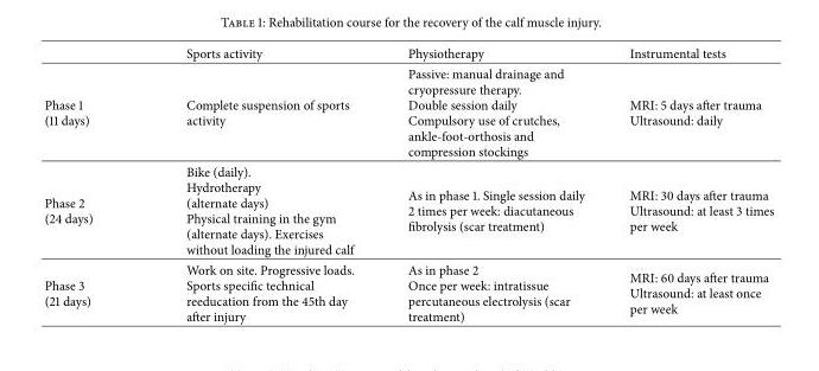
<table><thead><tr><td></td><td>Sports activity</td><td>Physiotherapy</td><td>Instrumental tests</td></tr></thead><tbody><tr><td>Phase 1 (11 days)</td><td>Complete suspension of sports activity</td><td>Passive: manual drainage and cryopressure therapy. Double session daily Compulsory use of crutches, ankle-foot-orthosis and compression stockings</td><td>MRI: 5 days after trauma Ultrasound: daily</td></tr><tr><td>Phase 2 (24 days)</td><td>Bike (daily). Hydrotherapy (alternate days) Physical training in the gym (alternate days). Exercises without loading the injured calf</td><td>As in phase 1. Single session daily 2 times per week: diacutaneous fibrolysis (scar treatment)</td><td>MRI: 30 days after trauma Ultrasound: at least 3 times per week</td></tr><tr><td>Phase 3 (21 days)</td><td>Work on site. Progressive loads. Sports specific technical reeducation from the 45th day after injury</td><td>As in phase 2 Once per week: intratissue percutaneous electrolysis (scar treatment)</td><td>MRI: 60 days after trauma Ultrasound: at least once per week</td></tr></tbody></table>